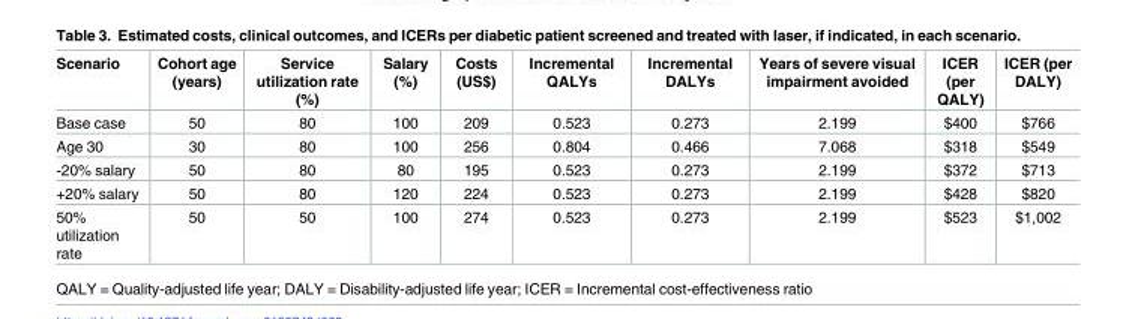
<table><thead><tr><td>Scenario</td><td>Cohort age (years)</td><td>Service utilization rate (%)</td><td>Salary (%)</td><td>Costs (US$)</td><td>Incremental QALYs</td><td>Incremental DALYs</td><td>Years of severe visual impairment avoided</td><td>ICER (per QALY)</td><td>ICER (per DALY)</td></tr></thead><tbody><tr><td>Base case</td><td>50</td><td>80</td><td>100</td><td>209</td><td>0.523</td><td>0.273</td><td>2.199</td><td>$400</td><td>$766</td></tr><tr><td>Age 30</td><td>30</td><td>80</td><td>100</td><td>256</td><td>0.804</td><td>0.466</td><td>7.068</td><td>$318</td><td>$549</td></tr><tr><td>-20% salary</td><td>50</td><td>80</td><td>80</td><td>195</td><td>0.523</td><td>0.273</td><td>2.199</td><td>$372</td><td>$713</td></tr><tr><td>+20% salary</td><td>50</td><td>80</td><td>120</td><td>224</td><td>0.523</td><td>0.273</td><td>2.199</td><td>$428</td><td>$820</td></tr><tr><td>50% utilization rate</td><td>50</td><td>50</td><td>100</td><td>274</td><td>0.523</td><td>0.273</td><td>2.199</td><td>$523</td><td>$1,002</td></tr></tbody></table>